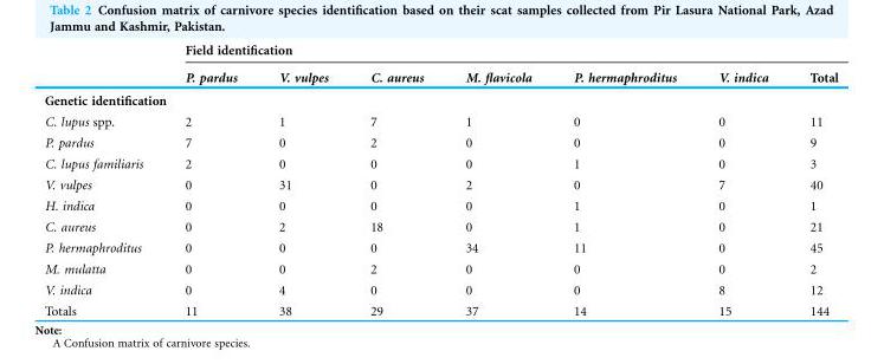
<table><thead><tr><td rowspan="2"></td><td colspan="7">Field identification</td></tr><tr><td>P. pardus</td><td>V. vulpes</td><td>C. aureus</td><td>M. flavicola</td><td>P. hermaphroditus</td><td>V. indica</td><td>Total</td></tr></thead><tbody><tr><td colspan="8">Genetic identification</td></tr><tr><td>C. lupus spp.</td><td>2</td><td>1</td><td>7</td><td>1</td><td>0</td><td>0</td><td>11</td></tr><tr><td>P. pardus</td><td>7</td><td>0</td><td>2</td><td>0</td><td>0</td><td>0</td><td>9</td></tr><tr><td>C. lupus familiaris</td><td>2</td><td>0</td><td>0</td><td>0</td><td>1</td><td>0</td><td>3</td></tr><tr><td>V. vulpes</td><td>0</td><td>31</td><td>0</td><td>2</td><td>0</td><td>7</td><td>40</td></tr><tr><td>H. indica</td><td>0</td><td>0</td><td>0</td><td>0</td><td>1</td><td>0</td><td>1</td></tr><tr><td>C. aureus</td><td>0</td><td>2</td><td>18</td><td>0</td><td>1</td><td>0</td><td>21</td></tr><tr><td>P. hermaphroditus</td><td>0</td><td>0</td><td>0</td><td>34</td><td>11</td><td>0</td><td>45</td></tr><tr><td>M. mulatta</td><td>0</td><td>0</td><td>2</td><td>0</td><td>0</td><td>0</td><td>2</td></tr><tr><td>V. indica</td><td>0</td><td>4</td><td>0</td><td>0</td><td>0</td><td>8</td><td>12</td></tr><tr><td>Totals</td><td>11</td><td>38</td><td>29</td><td>37</td><td>14</td><td>15</td><td>144</td></tr></tbody></table>